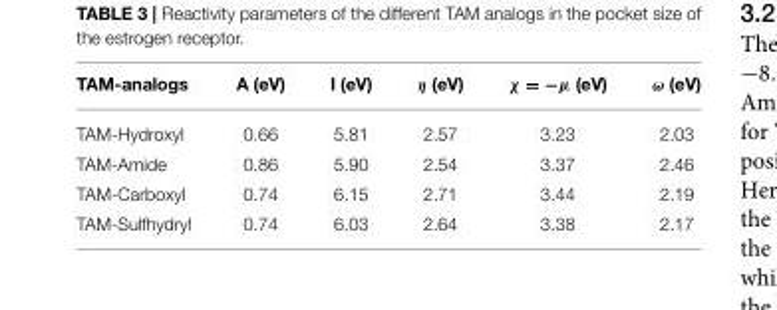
<table><thead><tr><td>TAM-analogs</td><td>A (eV)</td><td>I (eV)</td><td>η (eV)</td><td>χ = −µ (eV)</td><td>ω (eV)</td></tr></thead><tbody><tr><td>TAM-Hydroxyl</td><td>0.66</td><td>5.81</td><td>2.57</td><td>3.23</td><td>2.03</td></tr><tr><td>TAM-Amide</td><td>0.86</td><td>5.90</td><td>2.54</td><td>3.37</td><td>2.46</td></tr><tr><td>TAM-Carboxyl</td><td>0.74</td><td>6.15</td><td>2.71</td><td>3.44</td><td>2.19</td></tr><tr><td>TAM-Sulfhydryl</td><td>0.74</td><td>6.03</td><td>2.64</td><td>3.38</td><td>2.17</td></tr></tbody></table>